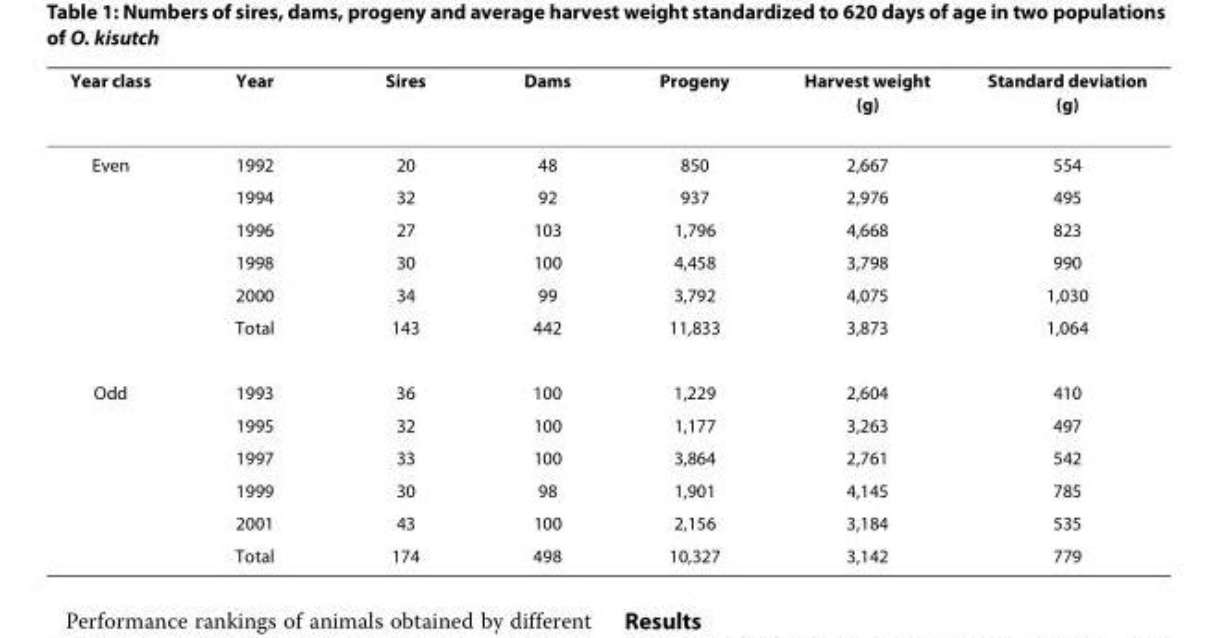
<table><thead><tr><td>Year class</td><td>Year</td><td>Sires</td><td>Dams</td><td>Progeny</td><td>Harvest weight (g)</td><td>Standard deviation (g)</td></tr></thead><tbody><tr><td rowspan="6">Even</td><td>1992</td><td>20</td><td>48</td><td>850</td><td>2,667</td><td>554</td></tr><tr><td>1994</td><td>32</td><td>92</td><td>937</td><td>2,976</td><td>495</td></tr><tr><td>1996</td><td>27</td><td>103</td><td>1,796</td><td>4,668</td><td>823</td></tr><tr><td>1998</td><td>30</td><td>100</td><td>4,458</td><td>3,798</td><td>990</td></tr><tr><td>2000</td><td>34</td><td>99</td><td>3,792</td><td>4,075</td><td>1,030</td></tr><tr><td>Total</td><td>143</td><td>442</td><td>11,833</td><td>3,873</td><td>1,064</td></tr><tr><td rowspan="6">Odd</td><td>1993</td><td>36</td><td>100</td><td>1,229</td><td>2,604</td><td>410</td></tr><tr><td>1995</td><td>32</td><td>100</td><td>1,177</td><td>3,263</td><td>497</td></tr><tr><td>1997</td><td>33</td><td>100</td><td>3,864</td><td>2,761</td><td>542</td></tr><tr><td>1999</td><td>30</td><td>98</td><td>1,901</td><td>4,145</td><td>785</td></tr><tr><td>2001</td><td>43</td><td>100</td><td>2,156</td><td>3,184</td><td>535</td></tr><tr><td>Total</td><td>174</td><td>498</td><td>10,327</td><td>3,142</td><td>779</td></tr></tbody></table>